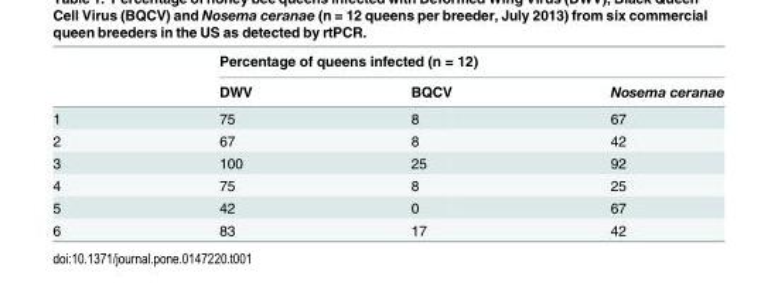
<table><thead><tr><td rowspan="2"></td><td colspan="3">Percentage of queens infected (n = 12)</td></tr><tr><td>DWV</td><td>BQCV</td><td>Nosema ceranae</td></tr></thead><tbody><tr><td>1</td><td>75</td><td>8</td><td>67</td></tr><tr><td>2</td><td>67</td><td>8</td><td>42</td></tr><tr><td>3</td><td>100</td><td>25</td><td>92</td></tr><tr><td>4</td><td>75</td><td>8</td><td>25</td></tr><tr><td>5</td><td>42</td><td>0</td><td>67</td></tr><tr><td>6</td><td>83</td><td>17</td><td>42</td></tr></tbody></table>